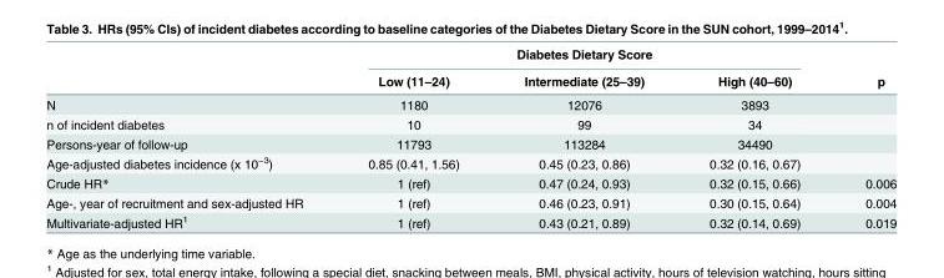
<table><thead><tr><td rowspan="2"></td><td colspan="3">Diabetes Dietary Score</td><td rowspan="2">p</td></tr><tr><td>Low (11–24)</td><td>Intermediate (25–39)</td><td>High (40–60)</td></tr></thead><tbody><tr><td>N</td><td>1180</td><td>12076</td><td>3893</td><td></td></tr><tr><td>n of incident diabetes</td><td>10</td><td>99</td><td>34</td><td></td></tr><tr><td>Persons-year of follow-up</td><td>11793</td><td>113284</td><td>34490</td><td></td></tr><tr><td>Age-adjusted diabetes incidence (x 10<sup>−3</sup>)</td><td>0.85 (0.41, 1.56)</td><td>0.45 (0.23, 0.86)</td><td>0.32 (0.16, 0.67)</td><td></td></tr><tr><td>Crude HR*</td><td>1 (ref)</td><td>0.47 (0.24, 0.93)</td><td>0.32 (0.15, 0.66)</td><td>0.006</td></tr><tr><td>Age-, year of recruitment and sex-adjusted HR</td><td>1 (ref)</td><td>0.46 (0.23, 0.91)</td><td>0.30 (0.15, 0.64)</td><td>0.004</td></tr><tr><td>Multivariate-adjusted HR<sup>1</sup></td><td>1 (ref)</td><td>0.43 (0.21, 0.89)</td><td>0.32 (0.14, 0.69)</td><td>0.019</td></tr></tbody></table>